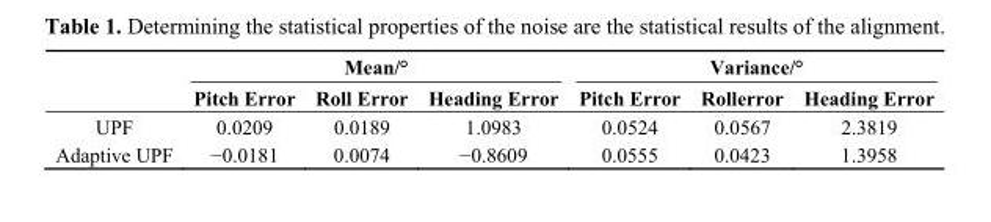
<table><thead><tr><td rowspan="2"></td><td colspan="3">Mean/°</td><td colspan="3">Variance/°</td></tr><tr><td>Pitch Error</td><td>Roll Error</td><td>Heading Error</td><td>Pitch Error</td><td>Rollerror</td><td>Heading Error</td></tr></thead><tbody><tr><td>UPF</td><td>0.0209</td><td>0.0189</td><td>1.0983</td><td>0.0524</td><td>0.0567</td><td>2.3819</td></tr><tr><td>Adaptive UPF</td><td>−0.0181</td><td>0.0074</td><td>−0.8609</td><td>0.0555</td><td>0.0423</td><td>1.3958</td></tr></tbody></table>